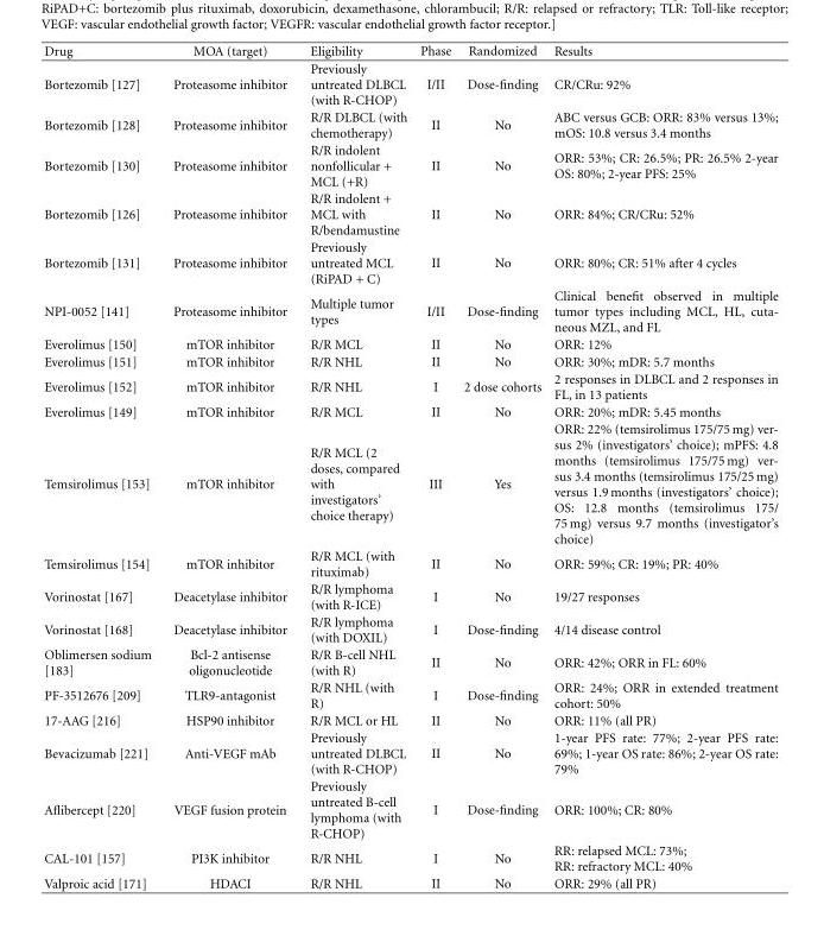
<table><thead><tr><td>Drug</td><td>MOA (target)</td><td>Eligibility</td><td>Phase</td><td>Randomized</td><td>Results</td></tr></thead><tbody><tr><td>Bortezomib [127]</td><td>Proteasome inhibitor</td><td>Previously untreated DLBCL (with R-CHOP)</td><td>I/II</td><td>Dose-finding</td><td>CR/CRu: 92%</td></tr><tr><td>Bortezomib [128]</td><td>Proteasome inhibitor</td><td>R/R DLBCL (with chemotherapy)</td><td>II</td><td>No</td><td>ABC versus GCB: ORR: 83% versus 13%; mOS: 10.8 versus 3.4 months</td></tr><tr><td>Bortezomib [130]</td><td>Proteasome inhibitor</td><td>R/R indolent nonfollicular + MCL (+R)</td><td>II</td><td>No</td><td>ORR: 53%; CR: 26.5%; PR: 26.5% 2-year OS: 80%; 2-year PFS: 25%</td></tr><tr><td>Bortezomib [126]</td><td>Proteasome inhibitor</td><td>R/R indolent + MCL with R/bendamustine</td><td>II</td><td>No</td><td>ORR: 84%; CR/CRu: 52%</td></tr><tr><td>Bortezomib [131]</td><td>Proteasome inhibitor</td><td>Previously untreated MCL (RiPAD + C)</td><td>II</td><td>No</td><td>ORR: 80%; CR: 51% after 4 cycles</td></tr><tr><td>NPI-0052 [141]</td><td>Proteasome inhibitor</td><td>Multiple tumor types</td><td>I/II</td><td>Dose-finding</td><td>Clinical benefit observed in multiple tumor types including MCL, HL, cuta- neous MZL, and FL</td></tr><tr><td>Everolimus [150]</td><td>mTOR inhibitor</td><td>R/R MCL</td><td>II</td><td>No</td><td>ORR: 12%</td></tr><tr><td>Everolimus [151]</td><td>mTOR inhibitor</td><td>R/R NHL</td><td>II</td><td>No</td><td>ORR: 30%; mDR: 5.7 months</td></tr><tr><td>Everolimus [152]</td><td>mTOR inhibitor</td><td>R/R NHL</td><td>I</td><td>2 dose cohorts</td><td>2 responses in DLBCL and 2 responses in FL, in 13 patients</td></tr><tr><td>Everolimus [149]</td><td>mTOR inhibitor</td><td>R/R MCL</td><td>II</td><td>No</td><td>ORR: 20%; mDR: 5.45 months</td></tr><tr><td>Temsirolimus [153]</td><td>mTOR inhibitor</td><td>R/R MCL (2 doses, compared with investigators’ choice therapy)</td><td>III</td><td>Yes</td><td>ORR: 22% (temsirolimus 175/75 mg) ver- sus 2% (investigators’ choice); mPFS: 4.8 months (temsirolimus 175/75 mg) ver- sus 3.4 months (temsirolimus 175/25 mg) versus 1.9 months (investigators’ choice); OS: 12.8 months (temsirolimus 175/ 75 mg) versus 9.7 months (investigator’s choice)</td></tr><tr><td>Temsirolimus [154]</td><td>mTOR inhibitor</td><td>R/R MCL (with rituximab)</td><td>II</td><td>No</td><td>ORR: 59%; CR: 19%; PR: 40%</td></tr><tr><td>Vorinostat [167]</td><td>Deacetylase inhibitor</td><td>R/R lymphoma (with R-ICE)</td><td>I</td><td>No</td><td>19/27 responses</td></tr><tr><td>Vorinostat [168]</td><td>Deacetylase inhibitor</td><td>R/R lymphoma (with DOXIL)</td><td>I</td><td>Dose-finding</td><td>4/14 disease control</td></tr><tr><td>Oblimersen sodium [183]</td><td>Bcl-2 antisense oligonucleotide</td><td>R/R B-cell NHL (with R)</td><td>II</td><td>No</td><td>ORR: 42%; ORR in FL: 60%</td></tr><tr><td>PF-3512676 [209]</td><td>TLR9-antagonist</td><td>R/R NHL (with R)</td><td>I</td><td>Dose-finding</td><td>ORR: 24%; ORR in extended treatment cohort: 50%</td></tr><tr><td>17-AAG [216]</td><td>HSP90 inhibitor</td><td>R/R MCL or HL</td><td>II</td><td>No</td><td>ORR: 11% (all PR)</td></tr><tr><td>Bevacizumab [221]</td><td>Anti-VEGF mAb</td><td>Previously untreated DLBCL (with R-CHOP)</td><td>II</td><td>No</td><td>1-year PFS rate: 77%; 2-year PFS rate: 69%; 1-year OS rate: 86%; 2-year OS rate: 79%</td></tr><tr><td>Aflibercept [220]</td><td>VEGF fusion protein</td><td>Previously untreated B-cell lymphoma (with R-CHOP)</td><td>I</td><td>Dose-finding</td><td>ORR: 100%; CR: 80%</td></tr><tr><td>CAL-101 [157]</td><td>PI3K inhibitor</td><td>R/R NHL</td><td>I</td><td>No</td><td>RR: relapsed MCL: 73%; RR: refractory MCL: 40%</td></tr><tr><td>Valproic acid [171]</td><td>HDACI</td><td>R/R NHL</td><td>II</td><td>No</td><td>ORR: 29% (all PR)</td></tr></tbody></table>